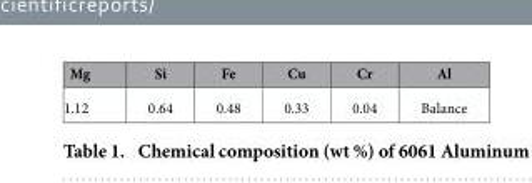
<table><thead><tr><td>Mg</td><td>Si</td><td>Fe</td><td>Cu</td><td>Cr</td><td>Al</td></tr></thead><tbody><tr><td>1.12</td><td>0.64</td><td>0.48</td><td>0.33</td><td>0.04</td><td>Balance</td></tr></tbody></table>